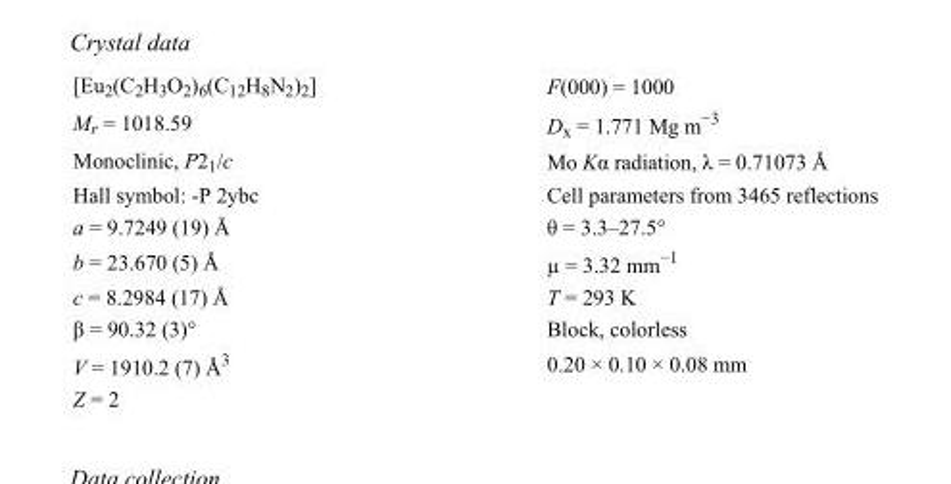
<table><tbody><tr><td>[Eu<sub>2</sub>(C<sub>2</sub>H<sub>3</sub>O<sub>2</sub>)<sub>6</sub>(C<sub>12</sub>H<sub>8</sub>N<sub>2</sub>)<sub>2</sub>]</td><td>F(000) = 1000</td></tr><tr><td>M<sub>r</sub> = 1018.59</td><td>D<sub>x</sub> = 1.771 Mg m<sup>−3</sup></td></tr><tr><td>Monoclinic, P2<sub>1</sub>/c</td><td>Mo Kα radiation, λ = 0.71073 Å</td></tr><tr><td>Hall symbol: -P 2ybc</td><td>Cell parameters from 3465 reflections</td></tr><tr><td>a = 9.7249 (19) Å</td><td>θ = 3.3–27.5°</td></tr><tr><td>b = 23.670 (5) Å</td><td>µ = 3.32 mm<sup>−1</sup></td></tr><tr><td>c = 8.2984 (17) Å</td><td>T = 293 K</td></tr><tr><td>β = 90.32 (3)°</td><td>Block, colorless</td></tr><tr><td>V = 1910.2 (7) Å<sup>3</sup></td><td>0.20 × 0.10 × 0.08 mm</td></tr><tr><td>Z = 2</td><td></td></tr></tbody></table>